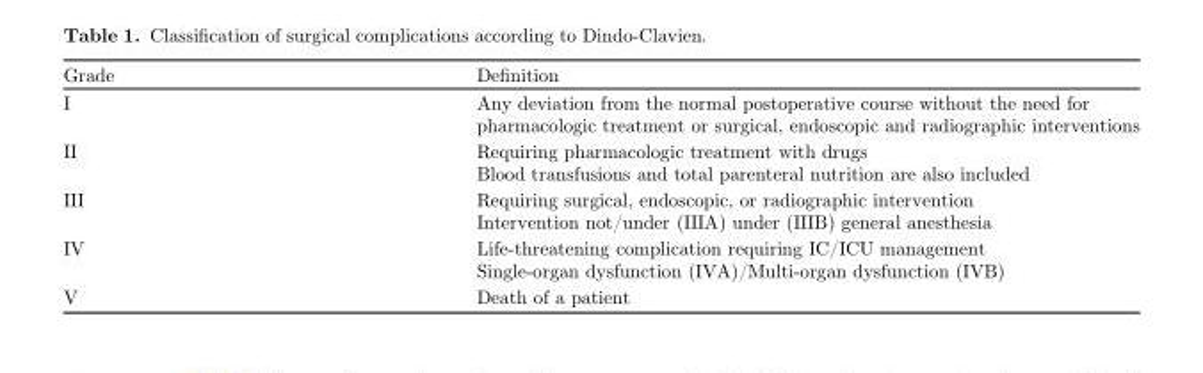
<table><thead><tr><td>Grade</td><td>Definition</td></tr></thead><tbody><tr><td>I</td><td>Any deviation from the normal postoperative course without the need for pharmacologic treatment or surgical, endoscopic and radiographic interventions</td></tr><tr><td>II</td><td>Requiring pharmacologic treatment with drugs Blood transfusions and total parenteral nutrition are also included</td></tr><tr><td>III</td><td>Requiring surgical, endoscopic, or radiographic intervention Intervention not/under (IIIA) under (IIIB) general anesthesia</td></tr><tr><td>IV</td><td>Life-threatening complication requiring IC/ICU management Single-organ dysfunction (IVA)/Multi-organ dysfunction (IVB)</td></tr><tr><td>V</td><td>Death of a patient</td></tr></tbody></table>